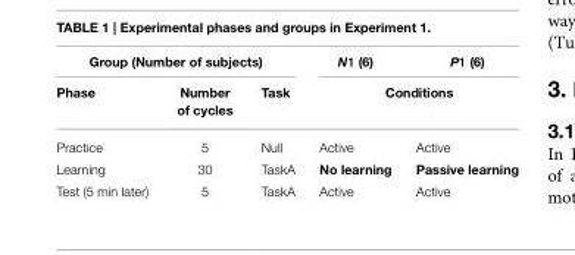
<table><thead><tr><td colspan="3">Group (Number of subjects)</td><td>N1 (6)</td><td>P1 (6)</td></tr><tr><td>Phase</td><td>Number of cycles</td><td>Task</td><td colspan="2">Conditions</td></tr></thead><tbody><tr><td>Practice</td><td>5</td><td>Null</td><td>Active</td><td>Active</td></tr><tr><td>Learning</td><td>30</td><td>TaskA</td><td>No learning</td><td>Passive learning</td></tr><tr><td>Test (5 min later)</td><td>5</td><td>TaskA</td><td>Active</td><td>Active</td></tr></tbody></table>